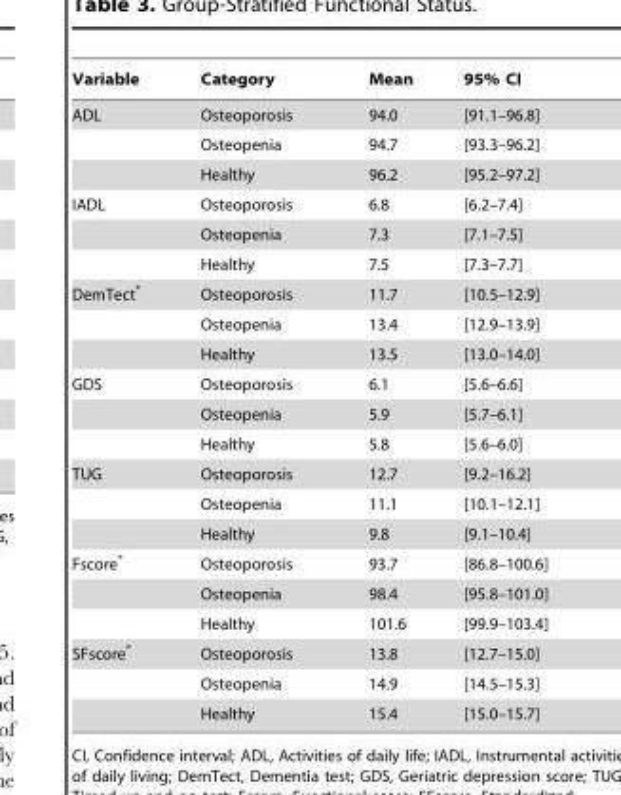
<table><thead><tr><td>Variable</td><td>Category</td><td>Mean</td><td>95% CI</td></tr></thead><tbody><tr><td rowspan="3">ADL</td><td>Osteoporosis</td><td>94.0</td><td>[91.1–96.8]</td></tr><tr><td>Osteopenia</td><td>94.7</td><td>[93.3–96.2]</td></tr><tr><td>Healthy</td><td>96.2</td><td>[95.2–97.2]</td></tr><tr><td rowspan="3">IADL</td><td>Osteoporosis</td><td>6.8</td><td>[6.2–7.4]</td></tr><tr><td>Osteopenia</td><td>7.3</td><td>[7.1–7.5]</td></tr><tr><td>Healthy</td><td>7.5</td><td>[7.3–7.7]</td></tr><tr><td rowspan="3">DemTect*</td><td>Osteoporosis</td><td>11.7</td><td>[10.5–12.9]</td></tr><tr><td>Osteopenia</td><td>13.4</td><td>[12.9–13.9]</td></tr><tr><td>Healthy</td><td>13.5</td><td>[13.0–14.0]</td></tr><tr><td rowspan="3">GDS</td><td>Osteoporosis</td><td>6.1</td><td>[5.6–6.6]</td></tr><tr><td>Osteopenia</td><td>5.9</td><td>[5.7–6.1]</td></tr><tr><td>Healthy</td><td>5.8</td><td>[5.6–6.0]</td></tr><tr><td rowspan="3">TUG</td><td>Osteoporosis</td><td>12.7</td><td>[9.2–16.2]</td></tr><tr><td>Osteopenia</td><td>11.1</td><td>[10.1–12.1]</td></tr><tr><td>Healthy</td><td>9.8</td><td>[9.1–10.4]</td></tr><tr><td rowspan="3">Fscore*</td><td>Osteoporosis</td><td>93.7</td><td>[86.8–100.6]</td></tr><tr><td>Osteopenia</td><td>98.4</td><td>[95.8–101.0]</td></tr><tr><td>Healthy</td><td>101.6</td><td>[99.9–103.4]</td></tr><tr><td rowspan="3">SFscore*</td><td>Osteoporosis</td><td>13.8</td><td>[12.7–15.0]</td></tr><tr><td>Osteopenia</td><td>14.9</td><td>[14.5–15.3]</td></tr><tr><td>Healthy</td><td>15.4</td><td>[15.0–15.7]</td></tr></tbody></table>